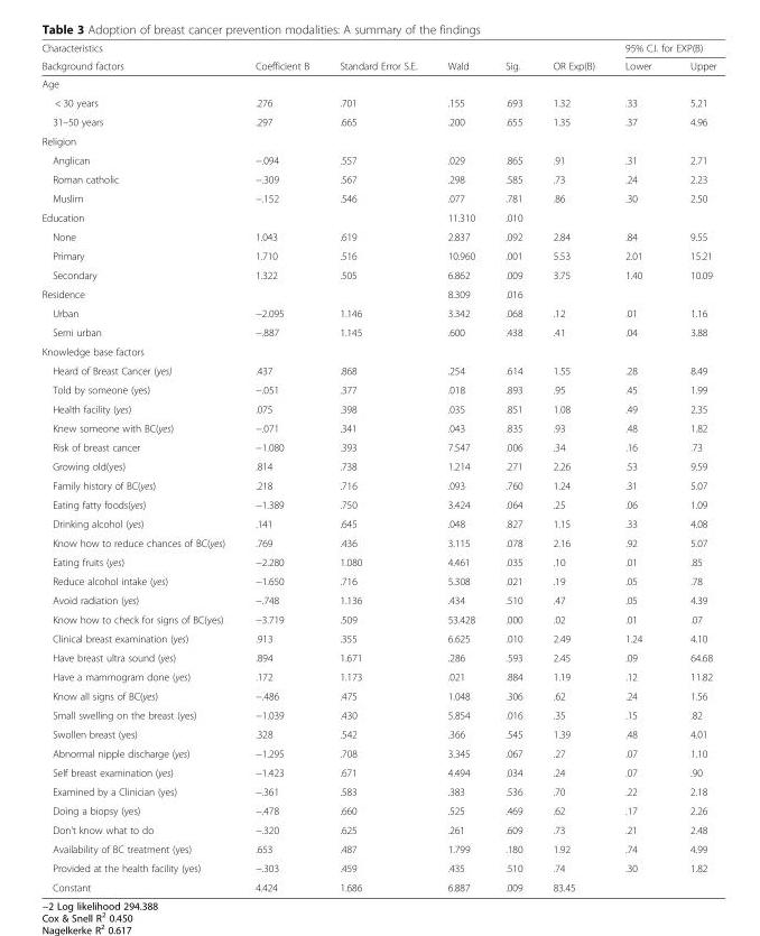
<table><thead><tr><td rowspan="2">Characteristics Background factors</td><td rowspan="2">Coefficient B</td><td rowspan="2">Standard Error S.E.</td><td rowspan="2">Wald</td><td rowspan="2">Sig.</td><td rowspan="2">OR Exp(B)</td><td colspan="2">95% C.I. for EXP(B)</td></tr><tr><td>Lower</td><td>Upper</td></tr></thead><tbody><tr><td colspan="8">Age</td></tr><tr><td>&lt; 30 years</td><td>.276</td><td>.701</td><td>.155</td><td>.693</td><td>1.32</td><td>.33</td><td>5.21</td></tr><tr><td>31–50 years</td><td>.297</td><td>.665</td><td>.200</td><td>.655</td><td>1.35</td><td>.37</td><td>4.96</td></tr><tr><td colspan="8">Religion</td></tr><tr><td>Anglican</td><td>−.094</td><td>.557</td><td>.029</td><td>.865</td><td>.91</td><td>.31</td><td>2.71</td></tr><tr><td>Roman catholic</td><td>−.309</td><td>.567</td><td>.298</td><td>.585</td><td>.73</td><td>.24</td><td>2.23</td></tr><tr><td>Muslim</td><td>−.152</td><td>.546</td><td>.077</td><td>.781</td><td>.86</td><td>.30</td><td>2.50</td></tr><tr><td>Education</td><td></td><td></td><td>11.310</td><td>.010</td><td></td><td></td><td></td></tr><tr><td>None</td><td>1.043</td><td>.619</td><td>2.837</td><td>.092</td><td>2.84</td><td>.84</td><td>9.55</td></tr><tr><td>Primary</td><td>1.710</td><td>.516</td><td>10.960</td><td>.001</td><td>5.53</td><td>2.01</td><td>15.21</td></tr><tr><td>Secondary</td><td>1.322</td><td>.505</td><td>6.862</td><td>.009</td><td>3.75</td><td>1.40</td><td>10.09</td></tr><tr><td>Residence</td><td></td><td></td><td>8.309</td><td>.016</td><td></td><td></td><td></td></tr><tr><td>Urban</td><td>−2.095</td><td>1.146</td><td>3.342</td><td>.068</td><td>.12</td><td>.01</td><td>1.16</td></tr><tr><td>Semi urban</td><td>−.887</td><td>1.145</td><td>.600</td><td>.438</td><td>.41</td><td>.04</td><td>3.88</td></tr><tr><td colspan="8">Knowledge base factors</td></tr><tr><td>Heard of Breast Cancer (yes)</td><td>.437</td><td>.868</td><td>.254</td><td>.614</td><td>1.55</td><td>.28</td><td>8.49</td></tr><tr><td>Told by someone (yes)</td><td>−.051</td><td>.377</td><td>.018</td><td>.893</td><td>.95</td><td>.45</td><td>1.99</td></tr><tr><td>Health facility (yes)</td><td>.075</td><td>.398</td><td>.035</td><td>.851</td><td>1.08</td><td>.49</td><td>2.35</td></tr><tr><td>Knew someone with BC(yes)</td><td>−.071</td><td>.341</td><td>.043</td><td>.835</td><td>.93</td><td>.48</td><td>1.82</td></tr><tr><td>Risk of breast cancer</td><td>−1.080</td><td>.393</td><td>7.547</td><td>.006</td><td>.34</td><td>.16</td><td>.73</td></tr><tr><td>Growing old(yes)</td><td>.814</td><td>.738</td><td>1.214</td><td>.271</td><td>2.26</td><td>.53</td><td>9.59</td></tr><tr><td>Family history of BC(yes)</td><td>.218</td><td>.716</td><td>.093</td><td>.760</td><td>1.24</td><td>.31</td><td>5.07</td></tr><tr><td>Eating fatty foods(yes)</td><td>−1.389</td><td>.750</td><td>3.424</td><td>.064</td><td>.25</td><td>.06</td><td>1.09</td></tr><tr><td>Drinking alcohol (yes)</td><td>.141</td><td>.645</td><td>.048</td><td>.827</td><td>1.15</td><td>.33</td><td>4.08</td></tr><tr><td>Know how to reduce chances of BC(yes)</td><td>.769</td><td>.436</td><td>3.115</td><td>.078</td><td>2.16</td><td>.92</td><td>5.07</td></tr><tr><td>Eating fruits (yes)</td><td>−2.280</td><td>1.080</td><td>4.461</td><td>.035</td><td>.10</td><td>.01</td><td>.85</td></tr><tr><td>Reduce alcohol intake (yes)</td><td>−1.650</td><td>.716</td><td>5.308</td><td>.021</td><td>.19</td><td>.05</td><td>.78</td></tr><tr><td>Avoid radiation (yes)</td><td>−.748</td><td>1.136</td><td>.434</td><td>.510</td><td>.47</td><td>.05</td><td>4.39</td></tr><tr><td>Know how to check for signs of BC(yes)</td><td>−3.719</td><td>.509</td><td>53.428</td><td>.000</td><td>.02</td><td>.01</td><td>.07</td></tr><tr><td>Clinical breast examination (yes)</td><td>.913</td><td>.355</td><td>6.625</td><td>.010</td><td>2.49</td><td>1.24</td><td>4.10</td></tr><tr><td>Have breast ultra sound (yes)</td><td>.894</td><td>1.671</td><td>.286</td><td>.593</td><td>2.45</td><td>.09</td><td>64.68</td></tr><tr><td>Have a mammogram done (yes)</td><td>.172</td><td>1.173</td><td>.021</td><td>.884</td><td>1.19</td><td>.12</td><td>11.82</td></tr><tr><td>Know all signs of BC(yes)</td><td>−.486</td><td>.475</td><td>1.048</td><td>.306</td><td>.62</td><td>.24</td><td>1.56</td></tr><tr><td>Small swelling on the breast (yes)</td><td>−1.039</td><td>.430</td><td>5.854</td><td>.016</td><td>.35</td><td>.15</td><td>.82</td></tr><tr><td>Swollen breast (yes)</td><td>.328</td><td>.542</td><td>.366</td><td>.545</td><td>1.39</td><td>.48</td><td>4.01</td></tr><tr><td>Abnormal nipple discharge (yes)</td><td>−1.295</td><td>.708</td><td>3.345</td><td>.067</td><td>.27</td><td>.07</td><td>1.10</td></tr><tr><td>Self breast examination (yes)</td><td>−1.423</td><td>.671</td><td>4.494</td><td>.034</td><td>.24</td><td>.07</td><td>.90</td></tr><tr><td>Examined by a Clinician (yes)</td><td>−.361</td><td>.583</td><td>.383</td><td>.536</td><td>.70</td><td>.22</td><td>2.18</td></tr><tr><td>Doing a biopsy (yes)</td><td>−.478</td><td>.660</td><td>.525</td><td>.469</td><td>.62</td><td>.17</td><td>2.26</td></tr><tr><td>Don’t know what to do</td><td>−.320</td><td>.625</td><td>.261</td><td>.609</td><td>.73</td><td>.21</td><td>2.48</td></tr><tr><td>Availability of BC treatment (yes)</td><td>.653</td><td>.487</td><td>1.799</td><td>.180</td><td>1.92</td><td>.74</td><td>4.99</td></tr><tr><td>Provided at the health facility (yes)</td><td>−.303</td><td>.459</td><td>.435</td><td>.510</td><td>.74</td><td>.30</td><td>1.82</td></tr><tr><td>Constant</td><td>4.424</td><td>1.686</td><td>6.887</td><td>.009</td><td>83.45</td><td></td><td></td></tr></tbody></table>